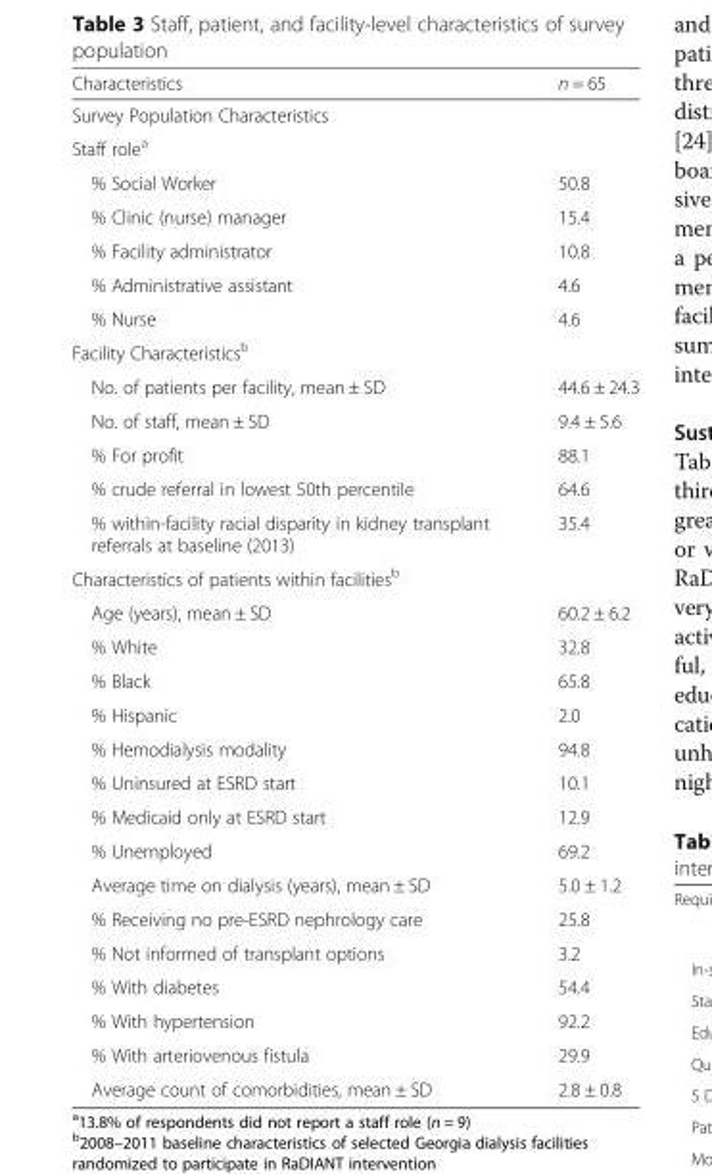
<table><thead><tr><td>Characteristics</td><td>n = 65</td></tr></thead><tbody><tr><td colspan="2">Survey Population Characteristics</td></tr><tr><td colspan="2">Staff role<sup>a</sup></td></tr><tr><td>% Social Worker</td><td>50.8</td></tr><tr><td>% Clinic (nurse) manager</td><td>15.4</td></tr><tr><td>% Facility administrator</td><td>10.8</td></tr><tr><td>% Administrative assistant</td><td>4.6</td></tr><tr><td>% Nurse</td><td>4.6</td></tr><tr><td colspan="2">Facility Characteristics<sup>b</sup></td></tr><tr><td>No. of patients per facility, mean ± SD</td><td>44.6 ± 24.3</td></tr><tr><td>No. of staff, mean ± SD</td><td>9.4 ± 5.6</td></tr><tr><td>% For profit</td><td>88.1</td></tr><tr><td>% crude referral in lowest 50th percentile</td><td>64.6</td></tr><tr><td>% within-facility racial disparity in kidney transplant referrals at baseline (2013)</td><td>35.4</td></tr><tr><td colspan="2">Characteristics of patients within facilities<sup>b</sup></td></tr><tr><td>Age (years), mean ± SD</td><td>60.2 ± 6.2</td></tr><tr><td>% White</td><td>32.8</td></tr><tr><td>% Black</td><td>65.8</td></tr><tr><td>% Hispanic</td><td>2.0</td></tr><tr><td>% Hemodialysis modality</td><td>94.8</td></tr><tr><td>% Uninsured at ESRD start</td><td>10.1</td></tr><tr><td>% Medicaid only at ESRD start</td><td>12.9</td></tr><tr><td>% Unemployed</td><td>69.2</td></tr><tr><td>Average time on dialysis (years), mean ± SD</td><td>5.0 ± 1.2</td></tr><tr><td>% Receiving no pre-ESRD nephrology care</td><td>25.8</td></tr><tr><td>% Not informed of transplant options</td><td>3.2</td></tr><tr><td>% With diabetes</td><td>54.4</td></tr><tr><td>% With hypertension</td><td>92.2</td></tr><tr><td>% With arteriovenous fistula</td><td>29.9</td></tr><tr><td>Average count of comorbidities, mean ± SD</td><td>2.8 ± 0.8</td></tr></tbody></table>